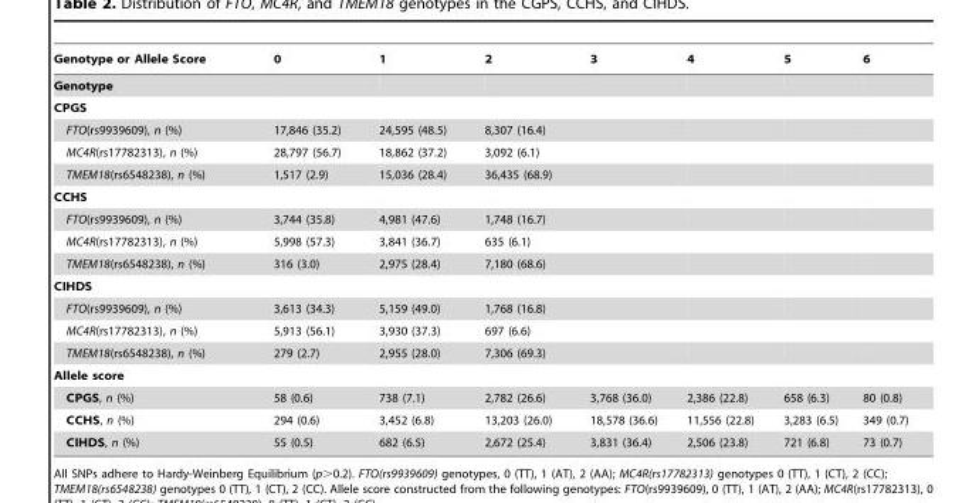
<table><thead><tr><td>Genotype or Allele Score</td><td>0</td><td>1</td><td>2</td><td>3</td><td>4</td><td>5</td><td>6</td></tr></thead><tbody><tr><td colspan="8">Genotype</td></tr><tr><td colspan="8">CPGS</td></tr><tr><td>FTO(rs9939609), n (%)</td><td>17,846 (35.2)</td><td>24,595 (48.5)</td><td>8,307 (16.4)</td><td></td><td></td><td></td><td></td></tr><tr><td>MC4R(rs17782313), n (%)</td><td>28,797 (56.7)</td><td>18,862 (37.2)</td><td>3,092 (6.1)</td><td></td><td></td><td></td><td></td></tr><tr><td>TMEM18(rs6548238), n (%)</td><td>1,517 (2.9)</td><td>15,036 (28.4)</td><td>36,435 (68.9)</td><td></td><td></td><td></td><td></td></tr><tr><td colspan="8">CCHS</td></tr><tr><td>FTO(rs9939609), n (%)</td><td>3,744 (35.8)</td><td>4,981 (47.6)</td><td>1,748 (16.7)</td><td></td><td></td><td></td><td></td></tr><tr><td>MC4R(rs17782313), n (%)</td><td>5,998 (57.3)</td><td>3,841 (36.7)</td><td>635 (6.1)</td><td></td><td></td><td></td><td></td></tr><tr><td>TMEM18(rs6548238), n (%)</td><td>316 (3.0)</td><td>2,975 (28.4)</td><td>7,180 (68.6)</td><td></td><td></td><td></td><td></td></tr><tr><td colspan="8">CIHDS</td></tr><tr><td>FTO(rs9939609), n (%)</td><td>3,613 (34.3)</td><td>5,159 (49.0)</td><td>1,768 (16.8)</td><td></td><td></td><td></td><td></td></tr><tr><td>MC4R(rs17782313), n (%)</td><td>5,913 (56.1)</td><td>3,930 (37.3)</td><td>697 (6.6)</td><td></td><td></td><td></td><td></td></tr><tr><td>TMEM18(rs6548238), n (%)</td><td>279 (2.7)</td><td>2,955 (28.0)</td><td>7,306 (69.3)</td><td></td><td></td><td></td><td></td></tr><tr><td colspan="8">Allele score</td></tr><tr><td>CPGS, n (%)</td><td>58 (0.6)</td><td>738 (7.1)</td><td>2,782 (26.6)</td><td>3,768 (36.0)</td><td>2,386 (22.8)</td><td>658 (6.3)</td><td>80 (0.8)</td></tr><tr><td>CCHS, n (%)</td><td>294 (0.6)</td><td>3,452 (6.8)</td><td>13,203 (26.0)</td><td>18,578 (36.6)</td><td>11,556 (22.8)</td><td>3,283 (6.5)</td><td>349 (0.7)</td></tr><tr><td>CIHDS, n (%)</td><td>55 (0.5)</td><td>682 (6.5)</td><td>2,672 (25.4)</td><td>3,831 (36.4)</td><td>2,506 (23.8)</td><td>721 (6.8)</td><td>73 (0.7)</td></tr></tbody></table>